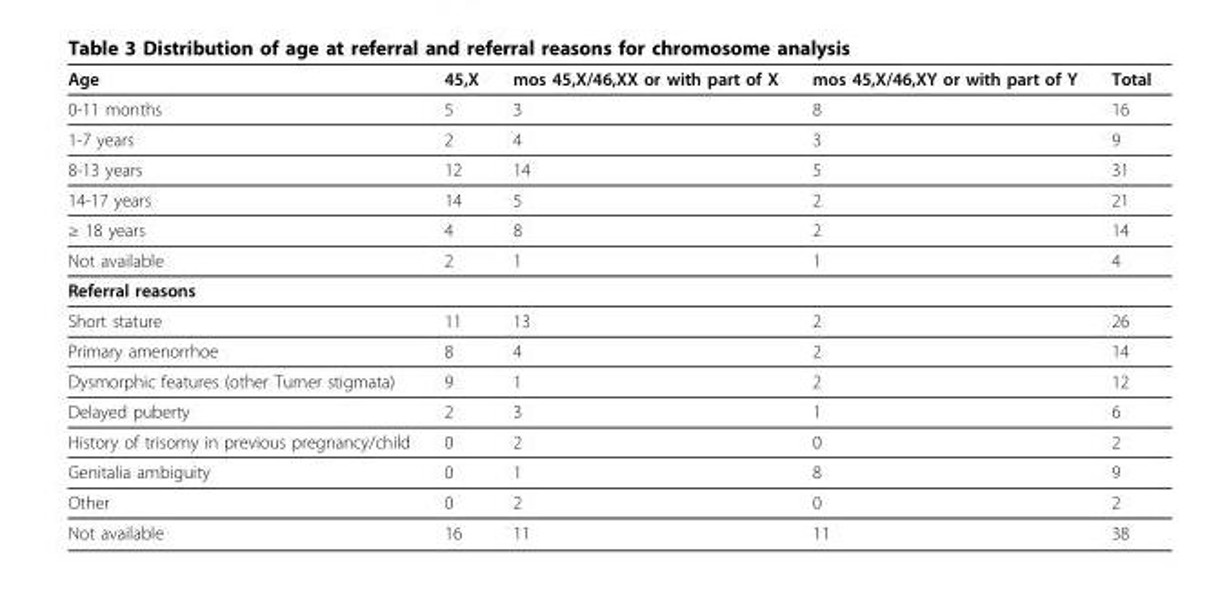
<table><thead><tr><td>Age</td><td>45,X</td><td>mos 45,X/46,XX or with part of X</td><td>mos 45,X/46,XY or with part of Y</td><td>Total</td></tr></thead><tbody><tr><td>0-11 months</td><td>5</td><td>3</td><td>8</td><td>16</td></tr><tr><td>1-7 years</td><td>2</td><td>4</td><td>3</td><td>9</td></tr><tr><td>8-13 years</td><td>12</td><td>14</td><td>5</td><td>31</td></tr><tr><td>14-17 years</td><td>14</td><td>5</td><td>2</td><td>21</td></tr><tr><td>≥ 18 years</td><td>4</td><td>8</td><td>2</td><td>14</td></tr><tr><td>Not available</td><td>2</td><td>1</td><td>1</td><td>4</td></tr><tr><td colspan="5">Referral reasons</td></tr><tr><td>Short stature</td><td>11</td><td>13</td><td>2</td><td>26</td></tr><tr><td>Primary amenorrhoe</td><td>8</td><td>4</td><td>2</td><td>14</td></tr><tr><td>Dysmorphic features (other Turner stigmata)</td><td>9</td><td>1</td><td>2</td><td>12</td></tr><tr><td>Delayed puberty</td><td>2</td><td>3</td><td>1</td><td>6</td></tr><tr><td>History of trisomy in previous pregnancy/child</td><td>0</td><td>2</td><td>0</td><td>2</td></tr><tr><td>Genitalia ambiguity</td><td>0</td><td>1</td><td>8</td><td>9</td></tr><tr><td>Other</td><td>0</td><td>2</td><td>0</td><td>2</td></tr><tr><td>Not available</td><td>16</td><td>11</td><td>11</td><td>38</td></tr></tbody></table>